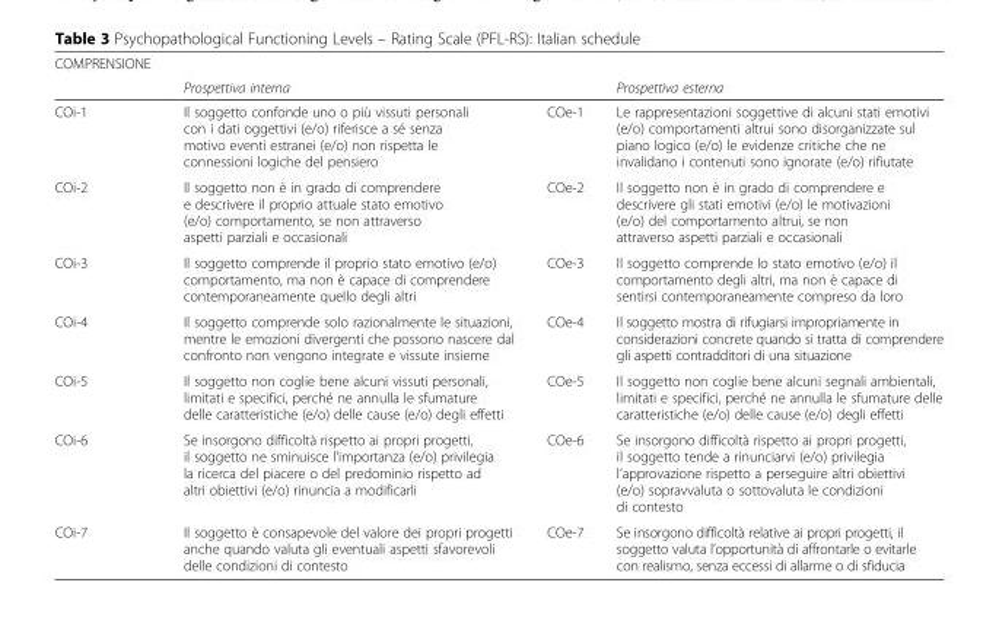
<table><thead><tr><td rowspan="2">COMPRENSIONE</td><td rowspan="2">Prospettiva interna</td><td rowspan="2"></td><td rowspan="2">Prospettiva esterna</td></tr><tr></tr></thead><tbody><tr><td>COi-1</td><td>Il soggetto confonde uno o più vissuti personali con i dati oggettivi (e/o) riferisce a sé senza motivo eventi estranei (e/o) non rispetta le connessioni logiche del pensiero</td><td>COe-1</td><td>Le rappresentazioni soggettive di alcuni stati emotivi (e/o) comportamenti altrui sono disorganizzate sul piano logico (e/o) le evidenze critiche che ne invalidano i contenuti sono ignorate (e/o) rifiutate</td></tr><tr><td>COi-2</td><td>Il soggetto non è in grado di comprendere e descrivere il proprio attuale stato emotivo (e/o) comportamento, se non attraverso aspetti parziali e occasionali</td><td>COe-2</td><td>Il soggetto non è in grado di comprendere e descrivere gli stati emotivi (e/o) le motivazioni (e/o) del comportamento altrui, se non attraverso aspetti parziali e occasionali</td></tr><tr><td>COi-3</td><td>Il soggetto comprende il proprio stato emotivo (e/o) comportamento, ma non è capace di comprendere contemporaneamente quello degli altri</td><td>COe-3</td><td>Il soggetto comprende lo stato emotivo (e/o) il comportamento degli altri, ma non è capace di sentirsi contemporaneamente compreso da loro</td></tr><tr><td>COi-4</td><td>Il soggetto comprende solo razionalmente le situazioni, mentre le emozioni divergenti che possono nascere dal confronto non vengono integrate e vissute insieme</td><td>COe-4</td><td>Il soggetto mostra di rifugiarsi impropriamente in considerazioni concrete quando si tratta di comprendere gli aspetti contradditori di una situazione</td></tr><tr><td>COi-5</td><td>Il soggetto non coglie bene alcuni vissuti personali, limitati e specifici, perché ne annulla le sfumature delle caratteristiche (e/o) delle cause (e/o) degli effetti</td><td>COe-5</td><td>Il soggetto non coglie bene alcuni segnali ambientali, limitati e specifici, perché ne annulla le sfumature delle caratteristiche (e/o) delle cause (e/o) degli effetti</td></tr><tr><td>COi-6</td><td>Se insorgono difficoltà rispetto ai propri progetti, il soggetto ne sminuisce l’importanza (e/o) privilegia la ricerca del piacere o del predominio rispetto ad altri obiettivi (e/o) rinuncia a modificarli</td><td>COe-6</td><td>Se insorgono difficoltà rispetto ai propri progetti, il soggetto tende a rinunciarvi (e/o) privilegia l’approvazione rispetto a perseguire altri obiettivi (e/o) sopravvaluta o sottovaluta le condizioni di contesto</td></tr><tr><td>COi-7</td><td>Il soggetto è consapevole del valore dei propri progetti anche quando valuta gli eventuali aspetti sfavorevoli delle condizioni di contesto</td><td>COe-7</td><td>Se insorgono difficoltà relative ai propri progetti, il soggetto valuta l’opportunità di affrontarle o evitarle con realismo, senza eccessi di allarme o di sfiducia</td></tr></tbody></table>